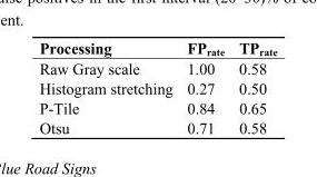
<table><thead><tr><td>Processing</td><td>FP<sub>rate</sub></td><td>TP<sub>rate</sub></td></tr></thead><tbody><tr><td>Raw Gray scale</td><td>1.00</td><td>0.58</td></tr><tr><td>Histogram stretching</td><td>0.27</td><td>0.50</td></tr><tr><td>P-Tile</td><td>0.84</td><td>0.65</td></tr><tr><td>Otsu</td><td>0.71</td><td>0.58</td></tr></tbody></table>